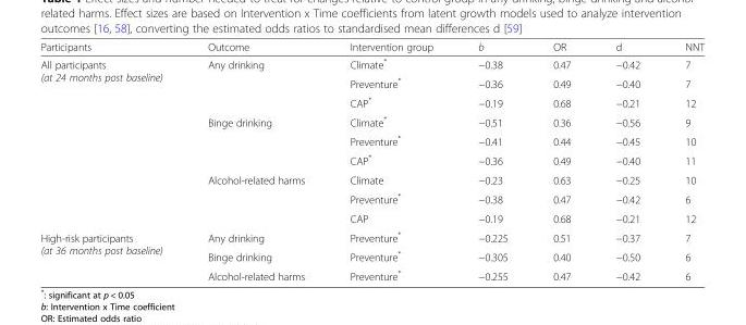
<table><thead><tr><td>Participants</td><td>Outcome</td><td>Intervention group</td><td>b</td><td>OR</td><td>d</td><td>NNT</td></tr></thead><tbody><tr><td rowspan="9">All participants (at 24 months post baseline)</td><td rowspan="3">Any drinking</td><td>Climate*</td><td>−0.38</td><td>0.47</td><td>−0.42</td><td>7</td></tr><tr><td>Preventure*</td><td>−0.36</td><td>0.49</td><td>−0.40</td><td>7</td></tr><tr><td>CAP*</td><td>−0.19</td><td>0.68</td><td>−0.21</td><td>12</td></tr><tr><td rowspan="3">Binge drinking</td><td>Climate*</td><td>−0.51</td><td>0.36</td><td>−0.56</td><td>9</td></tr><tr><td>Preventure*</td><td>−0.41</td><td>0.44</td><td>−0.45</td><td>10</td></tr><tr><td>CAP*</td><td>−0.36</td><td>0.49</td><td>−0.40</td><td>11</td></tr><tr><td rowspan="3">Alcohol-related harms</td><td>Climate</td><td>−0.23</td><td>0.63</td><td>−0.25</td><td>10</td></tr><tr><td>Preventure*</td><td>−0.38</td><td>0.47</td><td>−0.42</td><td>6</td></tr><tr><td>CAP</td><td>−0.19</td><td>0.68</td><td>−0.21</td><td>12</td></tr><tr><td rowspan="3">High-risk participants (at 36 months post baseline)</td><td>Any drinking</td><td>Preventure*</td><td>−0.225</td><td>0.51</td><td>−0.37</td><td>7</td></tr><tr><td>Binge drinking</td><td>Preventure*</td><td>−0.305</td><td>0.40</td><td>−0.50</td><td>6</td></tr><tr><td>Alcohol-related harms</td><td>Preventure*</td><td>−0.255</td><td>0.47</td><td>−0.42</td><td>6</td></tr></tbody></table>